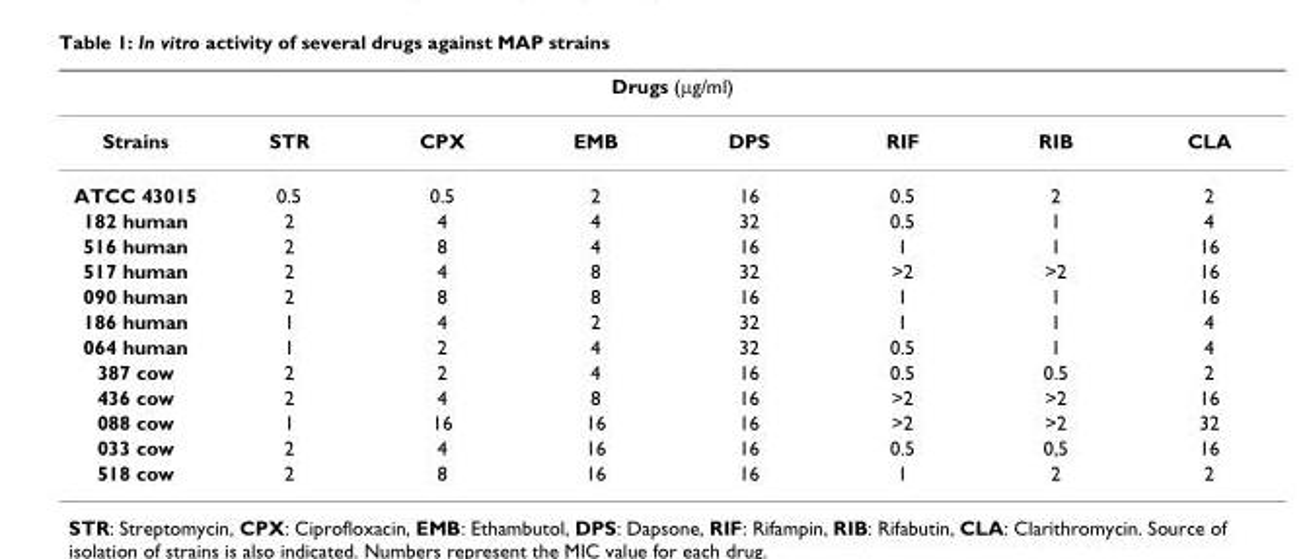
<table><thead><tr><td colspan="8">Drugs (μg/ml)</td></tr><tr><td>Strains</td><td>STR</td><td>CPX</td><td>EMB</td><td>DPS</td><td>RIF</td><td>RIB</td><td>CLA</td></tr></thead><tbody><tr><td>ATCC 43015</td><td>0.5</td><td>0.5</td><td>2</td><td>16</td><td>0.5</td><td>2</td><td>2</td></tr><tr><td>182 human</td><td>2</td><td>4</td><td>4</td><td>32</td><td>0.5</td><td>1</td><td>4</td></tr><tr><td>516 human</td><td>2</td><td>8</td><td>4</td><td>16</td><td>1</td><td>1</td><td>16</td></tr><tr><td>517 human</td><td>2</td><td>4</td><td>8</td><td>32</td><td>&gt;2</td><td>&gt;2</td><td>16</td></tr><tr><td>090 human</td><td>2</td><td>8</td><td>8</td><td>16</td><td>1</td><td>1</td><td>16</td></tr><tr><td>186 human</td><td>1</td><td>4</td><td>2</td><td>32</td><td>1</td><td>1</td><td>4</td></tr><tr><td>064 human</td><td>1</td><td>2</td><td>4</td><td>32</td><td>0.5</td><td>1</td><td>4</td></tr><tr><td>387 cow</td><td>2</td><td>2</td><td>4</td><td>16</td><td>0.5</td><td>0.5</td><td>2</td></tr><tr><td>436 cow</td><td>2</td><td>4</td><td>8</td><td>16</td><td>&gt;2</td><td>&gt;2</td><td>16</td></tr><tr><td>088 cow</td><td>1</td><td>16</td><td>16</td><td>16</td><td>&gt;2</td><td>&gt;2</td><td>32</td></tr><tr><td>033 cow</td><td>2</td><td>4</td><td>16</td><td>16</td><td>0.5</td><td>0,5</td><td>16</td></tr><tr><td>518 cow</td><td>2</td><td>8</td><td>16</td><td>16</td><td>1</td><td>2</td><td>2</td></tr></tbody></table>